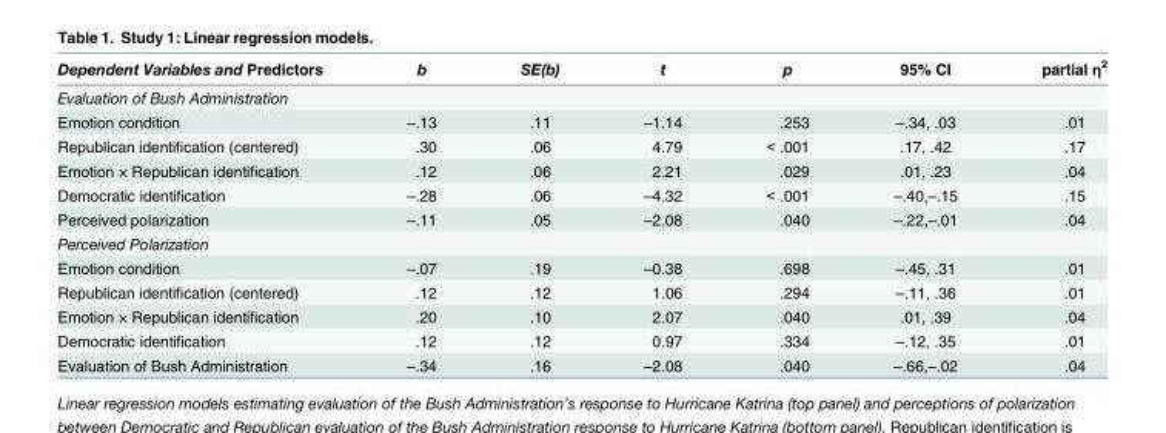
<table><thead><tr><td>Dependent Variables and Predictors</td><td>b</td><td>SE(b)</td><td>t</td><td>p</td><td>95% CI</td><td>partial η<sup>2</sup></td></tr></thead><tbody><tr><td colspan="7">Evaluation of Bush Administration</td></tr><tr><td>Emotion condition</td><td>–.13</td><td>.11</td><td>–1.14</td><td>.253</td><td>–.34, .03</td><td>.01</td></tr><tr><td>Republican identification (centered)</td><td>.30</td><td>.06</td><td>4.79</td><td>&lt; .001</td><td>.17, .42</td><td>.17</td></tr><tr><td>Emotion × Republican identification</td><td>.12</td><td>.06</td><td>2.21</td><td>.029</td><td>.01, .23</td><td>.04</td></tr><tr><td>Democratic identification</td><td>–.28</td><td>.06</td><td>–4.32</td><td>&lt; .001</td><td>–.40,–.15</td><td>.15</td></tr><tr><td>Perceived polarization</td><td>–.11</td><td>.05</td><td>–2.08</td><td>.040</td><td>–.22,–.01</td><td>.04</td></tr><tr><td colspan="7">Perceived Polarization</td></tr><tr><td>Emotion condition</td><td>–.07</td><td>.19</td><td>–0.38</td><td>.698</td><td>–.45, .31</td><td>.01</td></tr><tr><td>Republican identification (centered)</td><td>.12</td><td>.12</td><td>1.06</td><td>.294</td><td>–.11, .36</td><td>.01</td></tr><tr><td>Emotion × Republican identification</td><td>.20</td><td>.10</td><td>2.07</td><td>.040</td><td>.01, .39</td><td>.04</td></tr><tr><td>Democratic identification</td><td>.12</td><td>.12</td><td>0.97</td><td>.334</td><td>–.12, .35</td><td>.01</td></tr><tr><td>Evaluation of Bush Administration</td><td>–.34</td><td>.16</td><td>–2.08</td><td>.040</td><td>–.66,–.02</td><td>.04</td></tr></tbody></table>